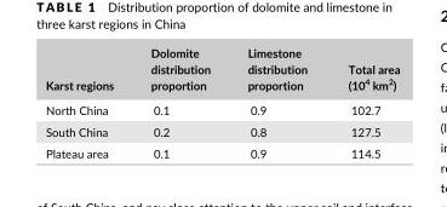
<table><thead><tr><td>Karst regions</td><td>Dolomite distribution proportion</td><td>Limestone distribution proportion</td><td>Total area (10<sup>4</sup> km<sup>2</sup>)</td></tr></thead><tbody><tr><td>North China</td><td>0.1</td><td>0.9</td><td>102.7</td></tr><tr><td>South China</td><td>0.2</td><td>0.8</td><td>127.5</td></tr><tr><td>Plateau area</td><td>0.1</td><td>0.9</td><td>114.5</td></tr></tbody></table>